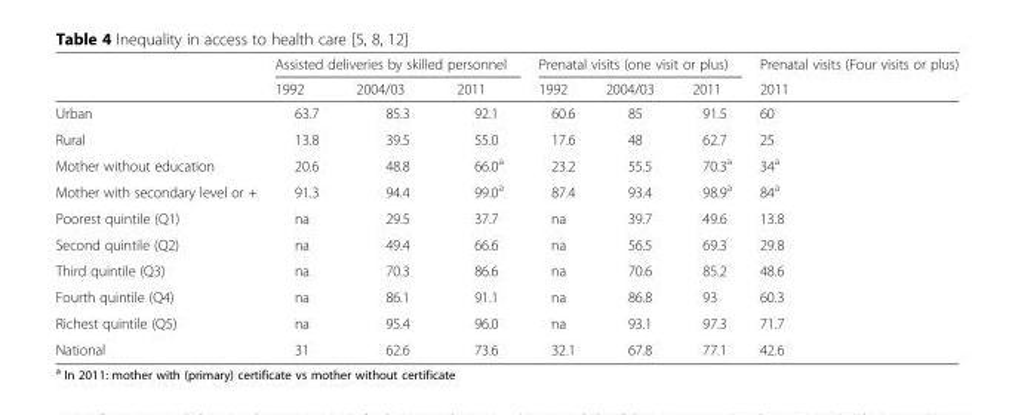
<table><thead><tr><td rowspan="2"></td><td colspan="3">Assisted deliveries by skilled personnel</td><td colspan="3">Prenatal visits (one visit or plus)</td><td rowspan="2">Prenatal visits (Four visits or plus) 2011</td></tr><tr><td>1992</td><td>2004/03</td><td>2011</td><td>1992</td><td>2004/03</td><td>2011</td></tr></thead><tbody><tr><td>Urban</td><td>63.7</td><td>85.3</td><td>92.1</td><td>60.6</td><td>85</td><td>91.5</td><td>60</td></tr><tr><td>Rural</td><td>13.8</td><td>39.5</td><td>55.0</td><td>17.6</td><td>48</td><td>62.7</td><td>25</td></tr><tr><td>Mother without education</td><td>20.6</td><td>48.8</td><td>66.0<sup>a</sup></td><td>23.2</td><td>55.5</td><td>70.3<sup>a</sup></td><td>34<sup>a</sup></td></tr><tr><td>Mother with secondary level or +</td><td>91.3</td><td>94.4</td><td>99.0<sup>a</sup></td><td>87.4</td><td>93.4</td><td>98.9<sup>a</sup></td><td>84<sup>a</sup></td></tr><tr><td>Poorest quintile (Q1)</td><td>na</td><td>29.5</td><td>37.7</td><td>na</td><td>39.7</td><td>49.6</td><td>13.8</td></tr><tr><td>Second quintile (Q2)</td><td>na</td><td>49.4</td><td>66.6</td><td>na</td><td>56.5</td><td>69.3</td><td>29.8</td></tr><tr><td>Third quintile (Q3)</td><td>na</td><td>70.3</td><td>86.6</td><td>na</td><td>70.6</td><td>85.2</td><td>48.6</td></tr><tr><td>Fourth quintile (Q4)</td><td>na</td><td>86.1</td><td>91.1</td><td>na</td><td>86.8</td><td>93</td><td>60.3</td></tr><tr><td>Richest quintile (Q5)</td><td>na</td><td>95.4</td><td>96.0</td><td>na</td><td>93.1</td><td>97.3</td><td>71.7</td></tr><tr><td>National</td><td>31</td><td>62.6</td><td>73.6</td><td>32.1</td><td>67.8</td><td>77.1</td><td>42.6</td></tr></tbody></table>